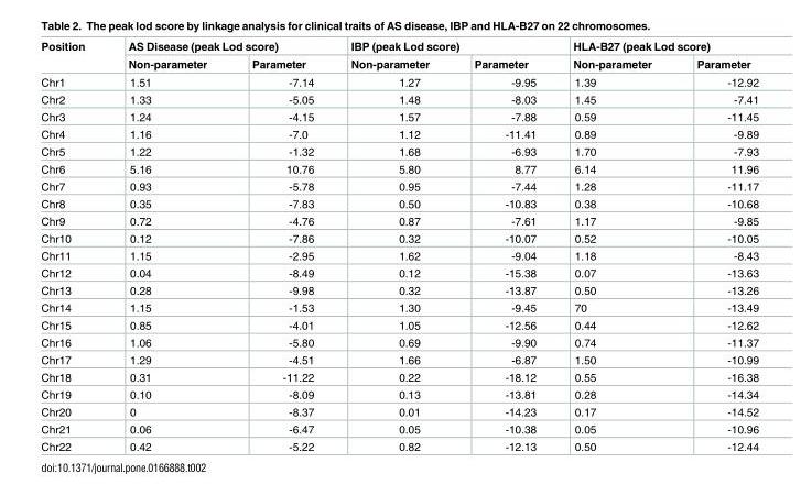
<table><thead><tr><td rowspan="2">Position</td><td colspan="2">AS Disease (peak Lod score)</td><td colspan="2">IBP (peak Lod score)</td><td colspan="2">HLA-B27 (peak Lod score)</td></tr><tr><td>Non-parameter</td><td>Parameter</td><td>Non-parameter</td><td>Parameter</td><td>Non-parameter</td><td>Parameter</td></tr></thead><tbody><tr><td>Chr1</td><td>1.51</td><td>-7.14</td><td>1.27</td><td>-9.95</td><td>1.39</td><td>-12.92</td></tr><tr><td>Chr2</td><td>1.33</td><td>-5.05</td><td>1.48</td><td>-8.03</td><td>1.45</td><td>-7.41</td></tr><tr><td>Chr3</td><td>1.24</td><td>-4.15</td><td>1.57</td><td>-7.88</td><td>0.59</td><td>-11.45</td></tr><tr><td>Chr4</td><td>1.16</td><td>-7.0</td><td>1.12</td><td>-11.41</td><td>0.89</td><td>-9.89</td></tr><tr><td>Chr5</td><td>1.22</td><td>-1.32</td><td>1.68</td><td>-6.93</td><td>1.70</td><td>-7.93</td></tr><tr><td>Chr6</td><td>5.16</td><td>10.76</td><td>5.80</td><td>8.77</td><td>6.14</td><td>11.96</td></tr><tr><td>Chr7</td><td>0.93</td><td>-5.78</td><td>0.95</td><td>-7.44</td><td>1.28</td><td>-11.17</td></tr><tr><td>Chr8</td><td>0.35</td><td>-7.83</td><td>0.50</td><td>-10.83</td><td>0.38</td><td>-10.68</td></tr><tr><td>Chr9</td><td>0.72</td><td>-4.76</td><td>0.87</td><td>-7.61</td><td>1.17</td><td>-9.85</td></tr><tr><td>Chr10</td><td>0.12</td><td>-7.86</td><td>0.32</td><td>-10.07</td><td>0.52</td><td>-10.05</td></tr><tr><td>Chr11</td><td>1.15</td><td>-2.95</td><td>1.62</td><td>-9.04</td><td>1.18</td><td>-8.43</td></tr><tr><td>Chr12</td><td>0.04</td><td>-8.49</td><td>0.12</td><td>-15.38</td><td>0.07</td><td>-13.63</td></tr><tr><td>Chr13</td><td>0.28</td><td>-9.98</td><td>0.32</td><td>-13.87</td><td>0.50</td><td>-13.26</td></tr><tr><td>Chr14</td><td>1.15</td><td>-1.53</td><td>1.30</td><td>-9.45</td><td>70</td><td>-13.49</td></tr><tr><td>Chr15</td><td>0.85</td><td>-4.01</td><td>1.05</td><td>-12.56</td><td>0.44</td><td>-12.62</td></tr><tr><td>Chr16</td><td>1.06</td><td>-5.80</td><td>0.69</td><td>-9.90</td><td>0.74</td><td>-11.37</td></tr><tr><td>Chr17</td><td>1.29</td><td>-4.51</td><td>1.66</td><td>-6.87</td><td>1.50</td><td>-10.99</td></tr><tr><td>Chr18</td><td>0.31</td><td>-11.22</td><td>0.22</td><td>-18.12</td><td>0.55</td><td>-16.38</td></tr><tr><td>Chr19</td><td>0.10</td><td>-8.09</td><td>0.13</td><td>-13.81</td><td>0.28</td><td>-14.34</td></tr><tr><td>Chr20</td><td>0</td><td>-8.37</td><td>0.01</td><td>-14.23</td><td>0.17</td><td>-14.52</td></tr><tr><td>Chr21</td><td>0.06</td><td>-6.47</td><td>0.05</td><td>-10.38</td><td>0.05</td><td>-10.96</td></tr><tr><td>Chr22</td><td>0.42</td><td>-5.22</td><td>0.82</td><td>-12.13</td><td>0.50</td><td>-12.44</td></tr></tbody></table>